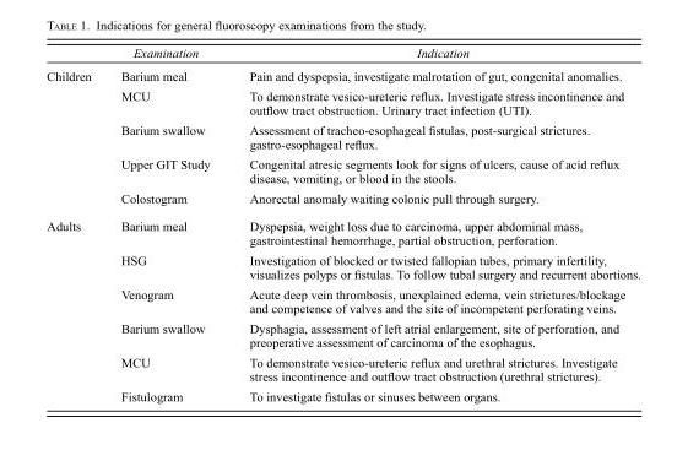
<table><thead><tr><td></td><td>Examination</td><td>Indication</td></tr></thead><tbody><tr><td rowspan="5">Children</td><td>Barium meal</td><td>Pain and dyspepsia, investigate malrotation of gut, congenital anomalies.</td></tr><tr><td>MCU</td><td>To demonstrate vesico-ureteric reflux. Investigate stress incontinence and outflow tract obstruction. Urinary tract infection (UTI).</td></tr><tr><td>Barium swallow</td><td>Assessment of tracheo-esophageal fistulas, post-surgical strictures. gastro-esophageal reflux.</td></tr><tr><td>Upper GIT Study</td><td>Congenital atresic segments look for signs of ulcers, cause of acid reflux disease, vomiting, or blood in the stools.</td></tr><tr><td>Colostogram</td><td>Anorectal anomaly waiting colonic pull through surgery.</td></tr><tr><td rowspan="6">Adults</td><td>Barium meal</td><td>Dyspepsia, weight loss due to carcinoma, upper abdominal mass, gastrointestinal hemorrhage, partial obstruction, perforation.</td></tr><tr><td>HSG</td><td>Investigation of blocked or twisted fallopian tubes, primary infertility, visualizes polyps or fistulas. To follow tubal surgery and recurrent abortions.</td></tr><tr><td>Venogram</td><td>Acute deep vein thrombosis, unexplained edema, vein strictures/blockage and competence of valves and the site of incompetent perforating veins.</td></tr><tr><td>Barium swallow</td><td>Dysphagia, assessment of left atrial enlargement, site of perforation, and preoperative assessment of carcinoma of the esophagus.</td></tr><tr><td>MCU</td><td>To demonstrate vesico-ureteric reflux and urethral strictures. Investigate stress incontinence and outflow tract obstruction (urethral strictures).</td></tr><tr><td>Fistulogram</td><td>To investigate fistulas or sinuses between organs.</td></tr></tbody></table>